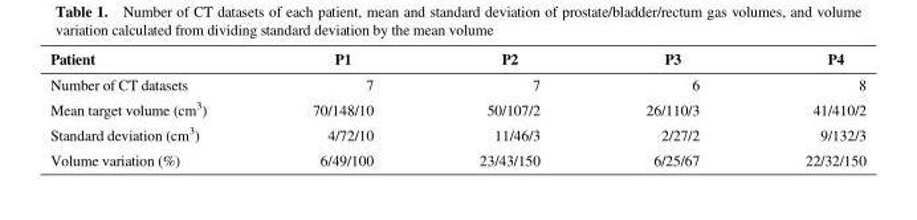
<table><thead><tr><td>Patient</td><td>P1</td><td>P2</td><td>P3</td><td>P4</td></tr></thead><tbody><tr><td>Number of CT datasets</td><td>7</td><td>7</td><td>6</td><td>8</td></tr><tr><td>Mean target volume (cm<sup>3</sup>)</td><td>70/148/10</td><td>50/107/2</td><td>26/110/3</td><td>41/410/2</td></tr><tr><td>Standard deviation (cm<sup>3</sup>)</td><td>4/72/10</td><td>11/46/3</td><td>2/27/2</td><td>9/132/3</td></tr><tr><td>Volume variation (%)</td><td>6/49/100</td><td>23/43/150</td><td>6/25/67</td><td>22/32/150</td></tr></tbody></table>